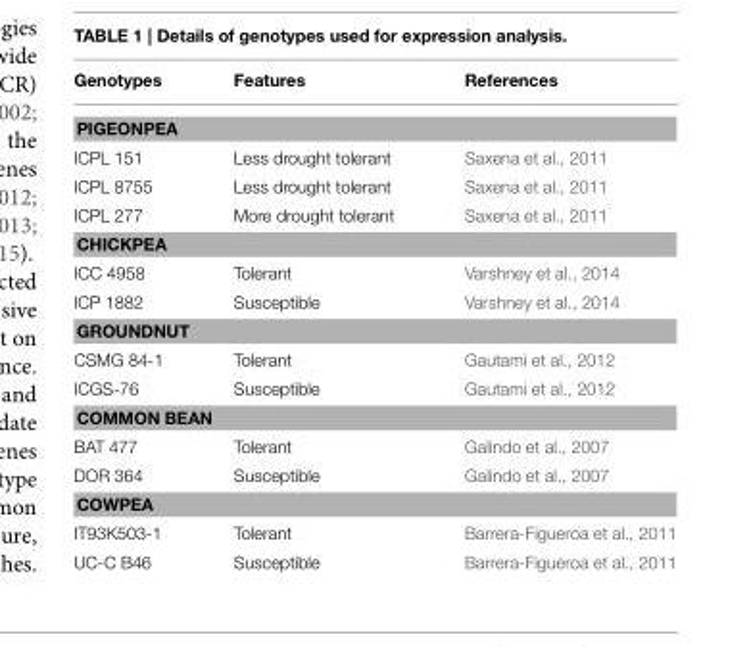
<table><thead><tr><td>Genotypes</td><td>Features</td><td>References</td></tr></thead><tbody><tr><td colspan="3">PIGEONPEA</td></tr><tr><td>ICPL 151</td><td>Less drought tolerant</td><td>Saxena et al., 2011</td></tr><tr><td>ICPL 8755</td><td>Less drought tolerant</td><td>Saxena et al., 2011</td></tr><tr><td>ICPL 277</td><td>More drought tolerant</td><td>Saxena et al., 2011</td></tr><tr><td colspan="3">CHICKPEA</td></tr><tr><td>ICC 4958</td><td>Tolerant</td><td>Varshney et al., 2014</td></tr><tr><td>ICP 1882</td><td>Susceptible</td><td>Varshney et al., 2014</td></tr><tr><td colspan="3">GROUNDNUT</td></tr><tr><td>CSMG 84-1</td><td>Tolerant</td><td>Gautami et al., 2012</td></tr><tr><td>ICGS-76</td><td>Susceptible</td><td>Gautami et al., 2012</td></tr><tr><td colspan="3">COMMON BEAN</td></tr><tr><td>BAT 477</td><td>Tolerant</td><td>Galindo et al., 2007</td></tr><tr><td>DOR 364</td><td>Susceptible</td><td>Galindo et al., 2007</td></tr><tr><td colspan="3">COWPEA</td></tr><tr><td>IT93K503-1</td><td>Tolerant</td><td>Barrera-Figueroa et al., 2011</td></tr><tr><td>UC-C B46</td><td>Susceptible</td><td>Barrera-Figueroa et al., 2011</td></tr></tbody></table>